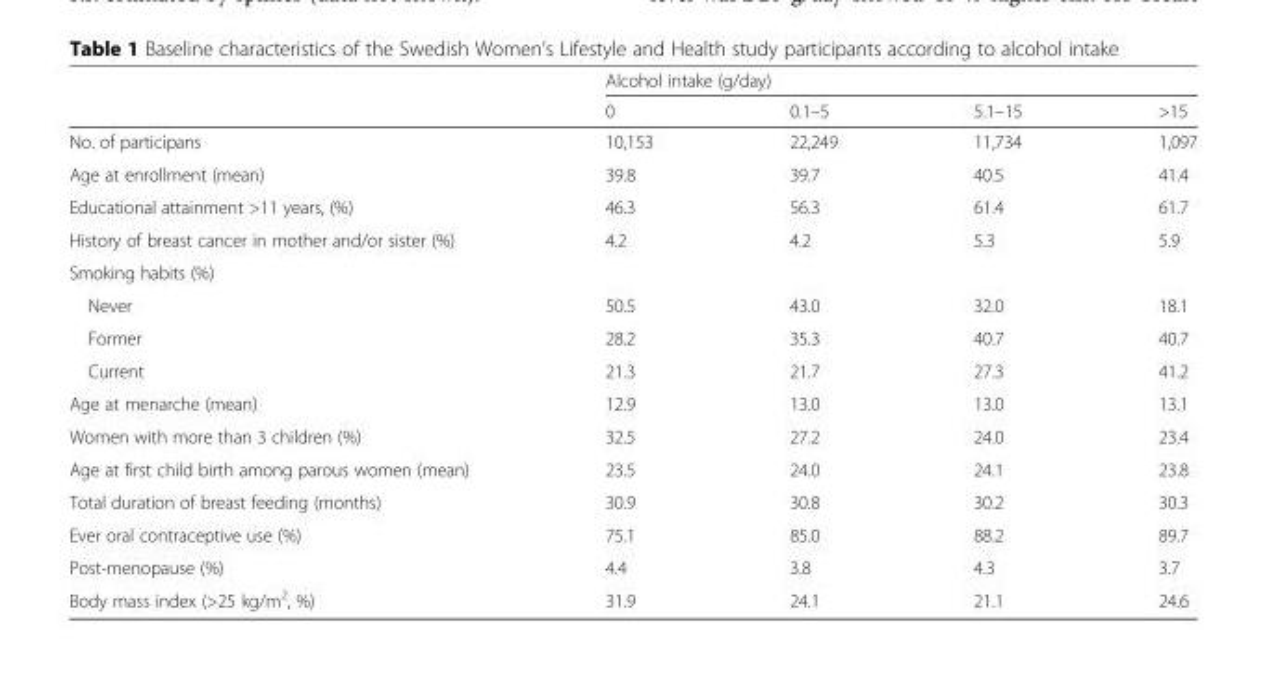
<table><thead><tr><td rowspan="2"></td><td colspan="4">Alcohol intake (g/day)</td></tr><tr><td>0</td><td>0.1–5</td><td>5.1–15</td><td>&gt;15</td></tr></thead><tbody><tr><td>No. of participans</td><td>10,153</td><td>22,249</td><td>11,734</td><td>1,097</td></tr><tr><td>Age at enrollment (mean)</td><td>39.8</td><td>39.7</td><td>40.5</td><td>41.4</td></tr><tr><td>Educational attainment &gt;11 years, (%)</td><td>46.3</td><td>56.3</td><td>61.4</td><td>61.7</td></tr><tr><td>History of breast cancer in mother and/or sister (%)</td><td>4.2</td><td>4.2</td><td>5.3</td><td>5.9</td></tr><tr><td colspan="5">Smoking habits (%)</td></tr><tr><td>Never</td><td>50.5</td><td>43.0</td><td>32.0</td><td>18.1</td></tr><tr><td>Former</td><td>28.2</td><td>35.3</td><td>40.7</td><td>40.7</td></tr><tr><td>Current</td><td>21.3</td><td>21.7</td><td>27.3</td><td>41.2</td></tr><tr><td>Age at menarche (mean)</td><td>12.9</td><td>13.0</td><td>13.0</td><td>13.1</td></tr><tr><td>Women with more than 3 children (%)</td><td>32.5</td><td>27.2</td><td>24.0</td><td>23.4</td></tr><tr><td>Age at first child birth among parous women (mean)</td><td>23.5</td><td>24.0</td><td>24.1</td><td>23.8</td></tr><tr><td>Total duration of breast feeding (months)</td><td>30.9</td><td>30.8</td><td>30.2</td><td>30.3</td></tr><tr><td>Ever oral contraceptive use (%)</td><td>75.1</td><td>85.0</td><td>88.2</td><td>89.7</td></tr><tr><td>Post-menopause (%)</td><td>4.4</td><td>3.8</td><td>4.3</td><td>3.7</td></tr><tr><td>Body mass index (&gt;25 kg/m<sup>2</sup>, %)</td><td>31.9</td><td>24.1</td><td>21.1</td><td>24.6</td></tr></tbody></table>